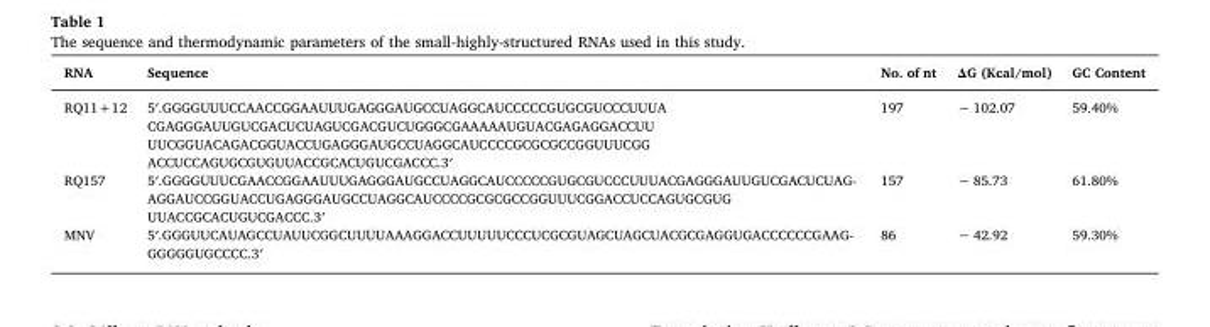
<table><thead><tr><td>RNA</td><td>Sequence</td><td>No. of nt</td><td>ΔG (Kcal/mol)</td><td>GC Content</td></tr></thead><tbody><tr><td rowspan="4">RQ11+12</td><td>5′.GGGGUUUCCAACCGGAAUUUGAGGGAUGCCUAGGCAUCCCCCGUGCGUCCCUUUA</td><td rowspan="4">197</td><td rowspan="4">− 102.07</td><td rowspan="4">59.40%</td></tr><tr><td>CGAGGGAUUGUCGACUCUAGUCGACGUCUGGGCGAAAAAUGUACGAGAGGACCUU</td></tr><tr><td>UUCGGUACAGACGGUACCUGAGGGAUGCCUAGGCAUCCCCGCGCGCCGGUUUCGG</td></tr><tr><td>ACCUCCAGUGCGUGUUACCGCACUGUCGACCC.3′</td></tr><tr><td>RQ157</td><td>5′.GGGGUUUCGAACCGGAAUUUGAGGGAUGCCUAGGCAUCCCCCGUGCGUCCCUUUACGAGGGAUUGUCGACUCUAG- AGGAUCCGGUACCUGAGGGAUGCCUAGGCAUCCCCGCGCGCCGGUUUCGGACCUCCAGUGCGUG UUACCGCACUGUCGACCC.3′</td><td>157</td><td>− 85.73</td><td>61.80%</td></tr><tr><td>MNV</td><td>5′.GGGUUCAUAGCCUAUUCGGCUUUUAAAGGACCUUUUUCCCUCGCGUAGCUAGCUACGCGAGGUGACCCCCCGAAG- GGGGGUGCCCC.3′</td><td>86</td><td>− 42.92</td><td>59.30%</td></tr></tbody></table>